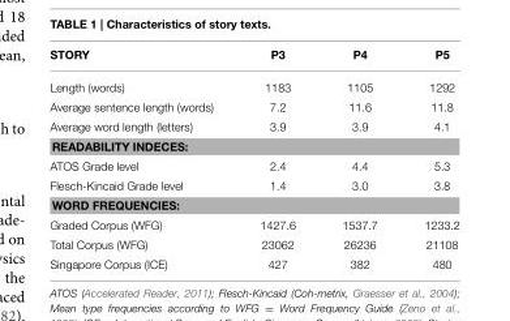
<table><thead><tr><td>STORY</td><td>P3</td><td>P4</td><td>P5</td></tr></thead><tbody><tr><td>Length (words)</td><td>1183</td><td>1105</td><td>1292</td></tr><tr><td>Average sentence length (words)</td><td>7.2</td><td>11.6</td><td>11.8</td></tr><tr><td>Average word length (letters)</td><td>3.9</td><td>3.9</td><td>4.1</td></tr><tr><td colspan="4">READABILITY INDECES:</td></tr><tr><td>ATOS Grade level</td><td>2.4</td><td>4.4</td><td>5.3</td></tr><tr><td>Flesch-Kincaid Grade level</td><td>1.4</td><td>3.0</td><td>3.8</td></tr><tr><td colspan="4">WORD FREQUENCIES:</td></tr><tr><td>Graded Corpus (WFG)</td><td>1427.6</td><td>1537.7</td><td>1233.2</td></tr><tr><td>Total Corpus (WFG)</td><td>23062</td><td>26236</td><td>21108</td></tr><tr><td>Singapore Corpus (ICE)</td><td>427</td><td>382</td><td>480</td></tr></tbody></table>